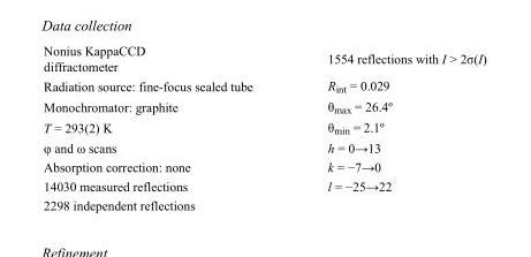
<table><tbody><tr><td>Nonius KappaCCD diffractometer</td><td>1554 reflections with I &gt; 2σ(I)</td></tr><tr><td>Radiation source: fine-focus sealed tube</td><td>R<sub>int</sub> = 0.029</td></tr><tr><td>Monochromator: graphite</td><td>θ<sub>max</sub> = 26.4º</td></tr><tr><td>T = 293(2) K</td><td>θ<sub>min</sub> = 2.1º</td></tr><tr><td>φ and ω scans</td><td>h = 0→13</td></tr><tr><td>Absorption correction: none</td><td>k = −7→0</td></tr><tr><td>14030 measured reflections</td><td>l = −25→22</td></tr><tr><td>2298 independent reflections</td><td></td></tr></tbody></table>